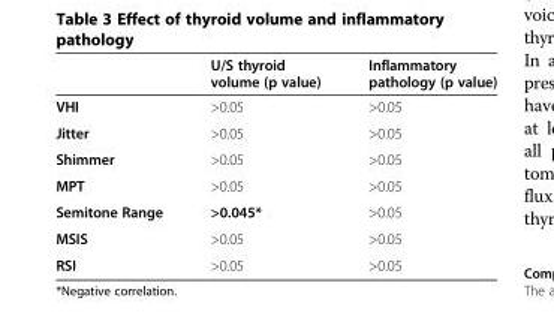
<table><thead><tr><td></td><td>U/S thyroid volume (p value)</td><td>Inflammatory pathology (p value)</td></tr></thead><tbody><tr><td>VHI</td><td>&gt;0.05</td><td>&gt;0.05</td></tr><tr><td>Jitter</td><td>&gt;0.05</td><td>&gt;0.05</td></tr><tr><td>Shimmer</td><td>&gt;0.05</td><td>&gt;0.05</td></tr><tr><td>MPT</td><td>&gt;0.05</td><td>&gt;0.05</td></tr><tr><td>Semitone Range</td><td>&gt;0.045*</td><td>&gt;0.05</td></tr><tr><td>MSIS</td><td>&gt;0.05</td><td>&gt;0.05</td></tr><tr><td>RSI</td><td>&gt;0.05</td><td>&gt;0.05</td></tr></tbody></table>